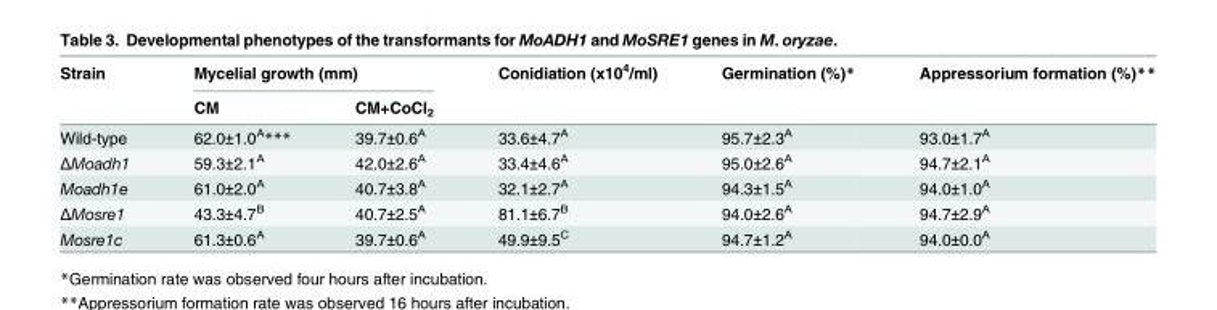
<table><thead><tr><td rowspan="2">Strain</td><td colspan="2">Mycelial growth (mm)</td><td rowspan="2">Conidiation (x10<sup>4</sup>/ml)</td><td rowspan="2">Germination (%)*</td><td rowspan="2">Appressorium formation (%)**</td></tr><tr><td>CM</td><td>CM+CoCl<sub>2</sub></td></tr></thead><tbody><tr><td>Wild-type</td><td>62.0±1.0<sup>A</sup>***</td><td>39.7±0.6<sup>A</sup></td><td>33.6±4.7<sup>A</sup></td><td>95.7±2.3<sup>A</sup></td><td>93.0±1.7<sup>A</sup></td></tr><tr><td>ΔMoadh1</td><td>59.3±2.1<sup>A</sup></td><td>42.0±2.6<sup>A</sup></td><td>33.4±4.6<sup>A</sup></td><td>95.0±2.6<sup>A</sup></td><td>94.7±2.1<sup>A</sup></td></tr><tr><td>Moadh1e</td><td>61.0±2.0<sup>A</sup></td><td>40.7±3.8<sup>A</sup></td><td>32.1±2.7<sup>A</sup></td><td>94.3±1.5<sup>A</sup></td><td>94.0±1.0<sup>A</sup></td></tr><tr><td>ΔMosre1</td><td>43.3±4.7<sup>B</sup></td><td>40.7±2.5<sup>A</sup></td><td>81.1±6.7<sup>B</sup></td><td>94.0±2.6<sup>A</sup></td><td>94.7±2.9<sup>A</sup></td></tr><tr><td>Mosre1c</td><td>61.3±0.6<sup>A</sup></td><td>39.7±0.6<sup>A</sup></td><td>49.9±9.5<sup>C</sup></td><td>94.7±1.2<sup>A</sup></td><td>94.0±0.0<sup>A</sup></td></tr></tbody></table>